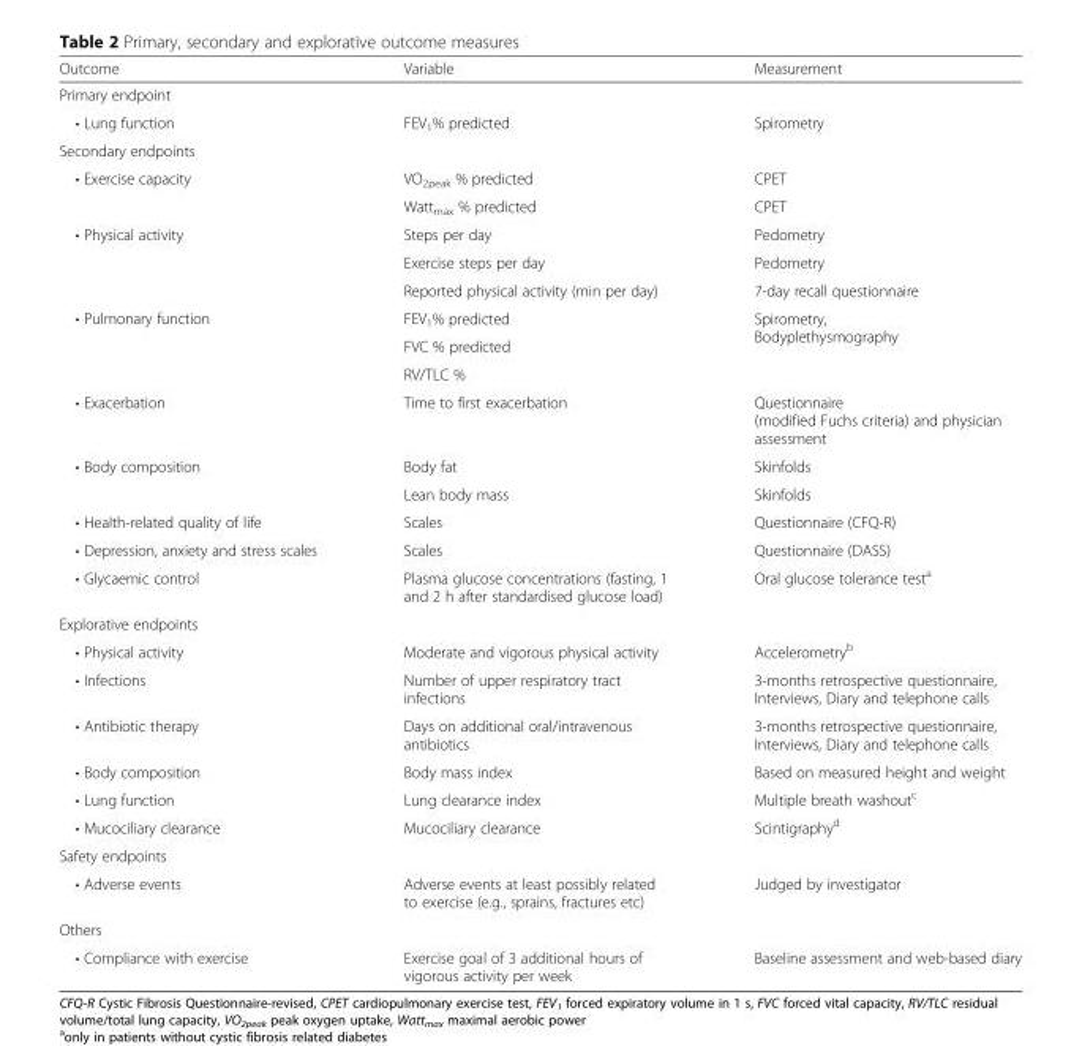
<table><thead><tr><td>Outcome</td><td>Variable</td><td>Measurement</td></tr></thead><tbody><tr><td colspan="3">Primary endpoint</td></tr><tr><td>• Lung function</td><td>FEV<sub>1</sub>% predicted</td><td>Spirometry</td></tr><tr><td colspan="3">Secondary endpoints</td></tr><tr><td rowspan="2">• Exercise capacity</td><td>VO<sub>2peak</sub> % predicted</td><td>CPET</td></tr><tr><td>Watt<sub>max</sub> % predicted</td><td>CPET</td></tr><tr><td rowspan="3">• Physical activity</td><td>Steps per day</td><td>Pedometry</td></tr><tr><td>Exercise steps per day</td><td>Pedometry</td></tr><tr><td>Reported physical activity (min per day)</td><td>7-day recall questionnaire</td></tr><tr><td rowspan="3">• Pulmonary function</td><td>FEV<sub>1</sub>% predicted</td><td rowspan="3">Spirometry, Bodyplethysmography</td></tr><tr><td>FVC % predicted</td></tr><tr><td>RV/TLC %</td></tr><tr><td>• Exacerbation</td><td>Time to first exacerbation</td><td>Questionnaire (modified Fuchs criteria) and physician assessment</td></tr><tr><td rowspan="2">• Body composition</td><td>Body fat</td><td>Skinfolds</td></tr><tr><td>Lean body mass</td><td>Skinfolds</td></tr><tr><td>• Health-related quality of life</td><td>Scales</td><td>Questionnaire (CFQ-R)</td></tr><tr><td>• Depression, anxiety and stress scales</td><td>Scales</td><td>Questionnaire (DASS)</td></tr><tr><td>• Glycaemic control</td><td>Plasma glucose concentrations (fasting, 1 and 2 h after standardised glucose load)</td><td>Oral glucose tolerance test<sup>a</sup></td></tr><tr><td colspan="3">Explorative endpoints</td></tr><tr><td>• Physical activity</td><td>Moderate and vigorous physical activity</td><td>Accelerometry<sup>b</sup></td></tr><tr><td>• Infections</td><td>Number of upper respiratory tract infections</td><td>3-months retrospective questionnaire, Interviews, Diary and telephone calls</td></tr><tr><td>• Antibiotic therapy</td><td>Days on additional oral/intravenous antibiotics</td><td>3-months retrospective questionnaire, Interviews, Diary and telephone calls</td></tr><tr><td>• Body composition</td><td>Body mass index</td><td>Based on measured height and weight</td></tr><tr><td>• Lung function</td><td>Lung clearance index</td><td>Multiple breath washout<sup>c</sup></td></tr><tr><td>• Mucociliary clearance</td><td>Mucociliary clearance</td><td>Scintigraphy<sup>d</sup></td></tr><tr><td colspan="3">Safety endpoints</td></tr><tr><td>• Adverse events</td><td>Adverse events at least possibly related to exercise (e.g., sprains, fractures etc)</td><td>Judged by investigator</td></tr><tr><td colspan="3">Others</td></tr><tr><td>• Compliance with exercise</td><td>Exercise goal of 3 additional hours of vigorous activity per week</td><td>Baseline assessment and web-based diary</td></tr></tbody></table>